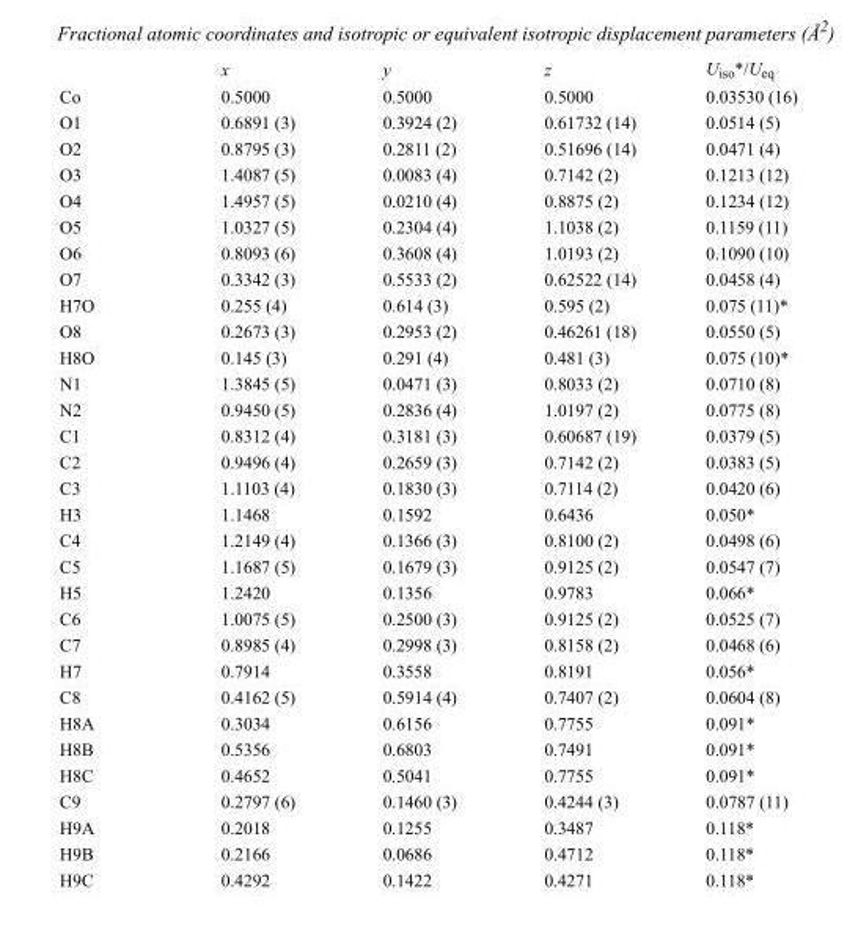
<table><thead><tr><td></td><td>x</td><td>y</td><td>z</td><td>U<sub>iso</sub>*/U<sub>eq</sub></td></tr></thead><tbody><tr><td>Co</td><td>0.5000</td><td>0.5000</td><td>0.5000</td><td>0.03530 (16)</td></tr><tr><td>O1</td><td>0.6891 (3)</td><td>0.3924 (2)</td><td>0.61732 (14)</td><td>0.0514 (5)</td></tr><tr><td>O2</td><td>0.8795 (3)</td><td>0.2811 (2)</td><td>0.51696 (14)</td><td>0.0471 (4)</td></tr><tr><td>O3</td><td>1.4087 (5)</td><td>0.0083 (4)</td><td>0.7142 (2)</td><td>0.1213 (12)</td></tr><tr><td>O4</td><td>1.4957 (5)</td><td>0.0210 (4)</td><td>0.8875 (2)</td><td>0.1234 (12)</td></tr><tr><td>O5</td><td>1.0327 (5)</td><td>0.2304 (4)</td><td>1.1038 (2)</td><td>0.1159 (11)</td></tr><tr><td>O6</td><td>0.8093 (6)</td><td>0.3608 (4)</td><td>1.0193 (2)</td><td>0.1090 (10)</td></tr><tr><td>O7</td><td>0.3342 (3)</td><td>0.5533 (2)</td><td>0.62522 (14)</td><td>0.0458 (4)</td></tr><tr><td>H7O</td><td>0.255 (4)</td><td>0.614 (3)</td><td>0.595 (2)</td><td>0.075 (11)*</td></tr><tr><td>O8</td><td>0.2673 (3)</td><td>0.2953 (2)</td><td>0.46261 (18)</td><td>0.0550 (5)</td></tr><tr><td>H8O</td><td>0.145 (3)</td><td>0.291 (4)</td><td>0.481 (3)</td><td>0.075 (10)*</td></tr><tr><td>N1</td><td>1.3845 (5)</td><td>0.0471 (3)</td><td>0.8033 (2)</td><td>0.0710 (8)</td></tr><tr><td>N2</td><td>0.9450 (5)</td><td>0.2836 (4)</td><td>1.0197 (2)</td><td>0.0775 (8)</td></tr><tr><td>C1</td><td>0.8312 (4)</td><td>0.3181 (3)</td><td>0.60687 (19)</td><td>0.0379 (5)</td></tr><tr><td>C2</td><td>0.9496 (4)</td><td>0.2659 (3)</td><td>0.7142 (2)</td><td>0.0383 (5)</td></tr><tr><td>C3</td><td>1.1103 (4)</td><td>0.1830 (3)</td><td>0.7114 (2)</td><td>0.0420 (6)</td></tr><tr><td>H3</td><td>1.1468</td><td>0.1592</td><td>0.6436</td><td>0.050*</td></tr><tr><td>C4</td><td>1.2149 (4)</td><td>0.1366 (3)</td><td>0.8100 (2)</td><td>0.0498 (6)</td></tr><tr><td>C5</td><td>1.1687 (5)</td><td>0.1679 (3)</td><td>0.9125 (2)</td><td>0.0547 (7)</td></tr><tr><td>H5</td><td>1.2420</td><td>0.1356</td><td>0.9783</td><td>0.066*</td></tr><tr><td>C6</td><td>1.0075 (5)</td><td>0.2500 (3)</td><td>0.9125 (2)</td><td>0.0525 (7)</td></tr><tr><td>C7</td><td>0.8985 (4)</td><td>0.2998 (3)</td><td>0.8158 (2)</td><td>0.0468 (6)</td></tr><tr><td>H7</td><td>0.7914</td><td>0.3558</td><td>0.8191</td><td>0.056*</td></tr><tr><td>C8</td><td>0.4162 (5)</td><td>0.5914 (4)</td><td>0.7407 (2)</td><td>0.0604 (8)</td></tr><tr><td>H8A</td><td>0.3034</td><td>0.6156</td><td>0.7755</td><td>0.091*</td></tr><tr><td>H8B</td><td>0.5356</td><td>0.6803</td><td>0.7491</td><td>0.091*</td></tr><tr><td>H8C</td><td>0.4652</td><td>0.5041</td><td>0.7755</td><td>0.091*</td></tr><tr><td>C9</td><td>0.2797 (6)</td><td>0.1460 (3)</td><td>0.4244 (3)</td><td>0.0787 (11)</td></tr><tr><td>H9A</td><td>0.2018</td><td>0.1255</td><td>0.3487</td><td>0.118*</td></tr><tr><td>H9B</td><td>0.2166</td><td>0.0686</td><td>0.4712</td><td>0.118*</td></tr><tr><td>H9C</td><td>0.4292</td><td>0.1422</td><td>0.4271</td><td>0.118*</td></tr></tbody></table>